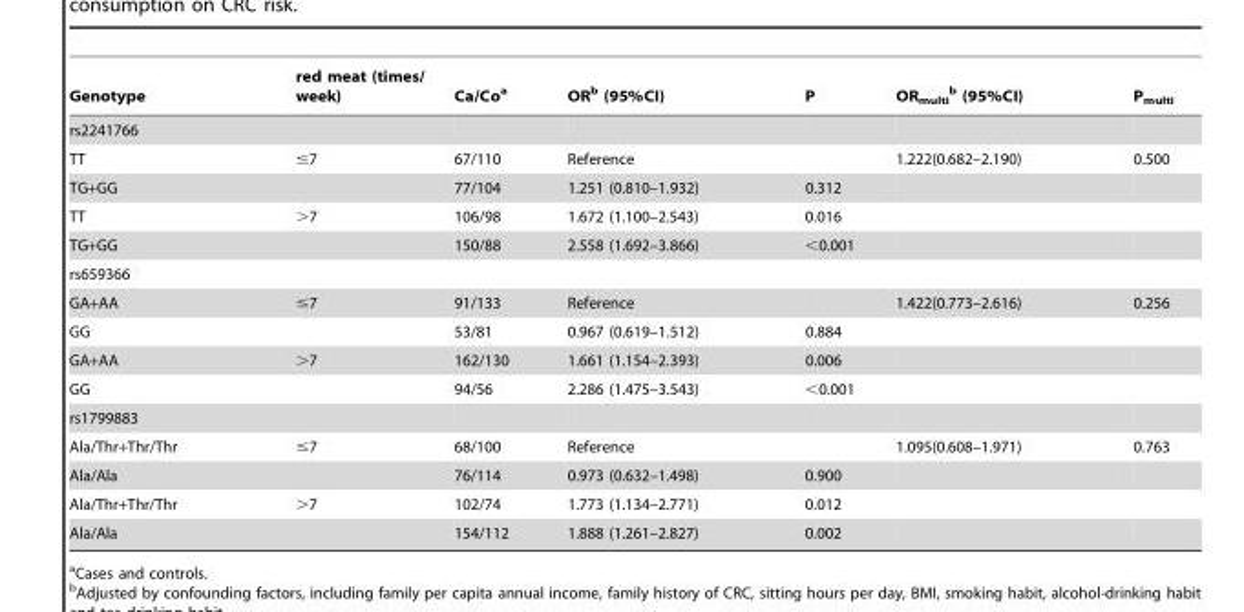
<table><thead><tr><td>Genotype</td><td>red meat (times/ week)</td><td>Ca/Co<sup>a</sup></td><td>OR<sup>b</sup> (95%CI)</td><td>P</td><td>OR<sub>multi</sub> b (95%CI)</td><td>P<sub>multi</sub></td></tr></thead><tbody><tr><td colspan="7">rs2241766</td></tr><tr><td>TT</td><td>≤7</td><td>67/110</td><td>Reference</td><td></td><td>1.222(0.682–2.190)</td><td>0.500</td></tr><tr><td>TG+GG</td><td></td><td>77/104</td><td>1.251 (0.810–1.932)</td><td>0.312</td><td></td><td></td></tr><tr><td>TT</td><td>&gt;7</td><td>106/98</td><td>1.672 (1.100–2.543)</td><td>0.016</td><td></td><td></td></tr><tr><td>TG+GG</td><td></td><td>150/88</td><td>2.558 (1.692–3.866)</td><td>&lt;0.001</td><td></td><td></td></tr><tr><td colspan="7">rs659366</td></tr><tr><td>GA+AA</td><td>≤7</td><td>91/133</td><td>Reference</td><td></td><td>1.422(0.773–2.616)</td><td>0.256</td></tr><tr><td>GG</td><td></td><td>53/81</td><td>0.967 (0.619–1.512)</td><td>0.884</td><td></td><td></td></tr><tr><td>GA+AA</td><td>&gt;7</td><td>162/130</td><td>1.661 (1.154–2.393)</td><td>0.006</td><td></td><td></td></tr><tr><td>GG</td><td></td><td>94/56</td><td>2.286 (1.475–3.543)</td><td>&lt;0.001</td><td></td><td></td></tr><tr><td colspan="7">rs1799883</td></tr><tr><td>Ala/Thr+Thr/Thr</td><td>≤7</td><td>68/100</td><td>Reference</td><td></td><td>1.095(0.608–1.971)</td><td>0.763</td></tr><tr><td>Ala/Ala</td><td></td><td>76/114</td><td>0.973 (0.632–1.498)</td><td>0.900</td><td></td><td></td></tr><tr><td>Ala/Thr+Thr/Thr</td><td>&gt;7</td><td>102/74</td><td>1.773 (1.134–2.771)</td><td>0.012</td><td></td><td></td></tr><tr><td>Ala/Ala</td><td></td><td>154/112</td><td>1.888 (1.261–2.827)</td><td>0.002</td><td></td><td></td></tr></tbody></table>